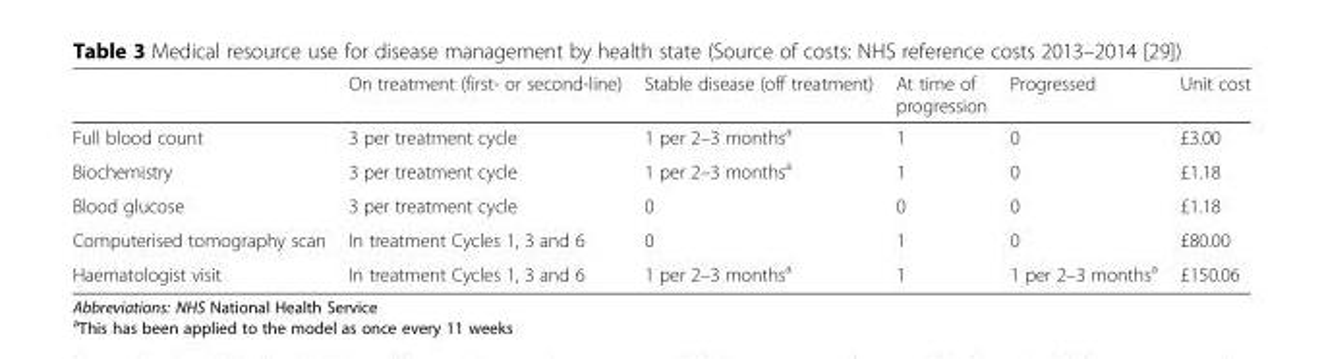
<table><thead><tr><td></td><td>On treatment (first- or second-line)</td><td>Stable disease (off treatment)</td><td>At time of progression</td><td>Progressed</td><td>Unit cost</td></tr></thead><tbody><tr><td>Full blood count</td><td>3 per treatment cycle</td><td>1 per 2–3 months<sup>a</sup></td><td>1</td><td>0</td><td>£3.00</td></tr><tr><td>Biochemistry</td><td>3 per treatment cycle</td><td>1 per 2–3 months<sup>a</sup></td><td>1</td><td>0</td><td>£1.18</td></tr><tr><td>Blood glucose</td><td>3 per treatment cycle</td><td>0</td><td>0</td><td>0</td><td>£1.18</td></tr><tr><td>Computerised tomography scan</td><td>In treatment Cycles 1, 3 and 6</td><td>0</td><td>1</td><td>0</td><td>£80.00</td></tr><tr><td>Haematologist visit</td><td>In treatment Cycles 1, 3 and 6</td><td>1 per 2–3 months<sup>a</sup></td><td>1</td><td>1 per 2–3 months<sup>a</sup></td><td>£150.06</td></tr></tbody></table>